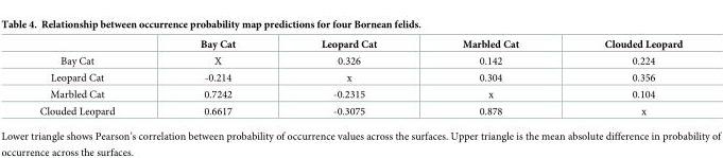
<table><thead><tr><td></td><td>Bay Cat</td><td>Leopard Cat</td><td>Marbled Cat</td><td>Clouded Leopard</td></tr></thead><tbody><tr><td>Bay Cat</td><td>X</td><td>0.326</td><td>0.142</td><td>0.224</td></tr><tr><td>Leopard Cat</td><td>-0.214</td><td>x</td><td>0.304</td><td>0.356</td></tr><tr><td>Marbled Cat</td><td>0.7242</td><td>-0.2315</td><td>x</td><td>0.104</td></tr><tr><td>Clouded Leopard</td><td>0.6617</td><td>-0.3075</td><td>0.878</td><td>x</td></tr></tbody></table>